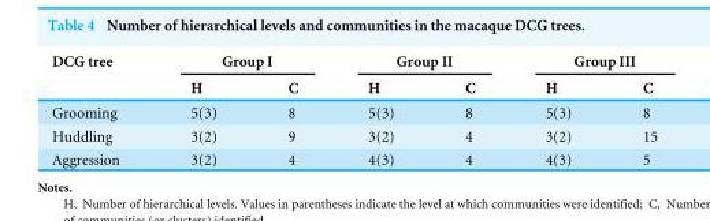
<table><thead><tr><td rowspan="2">DCG tree</td><td colspan="2">Group I</td><td colspan="2">Group II</td><td colspan="2">Group III</td></tr><tr><td>H</td><td>C</td><td>H</td><td>C</td><td>H</td><td>C</td></tr></thead><tbody><tr><td>Grooming</td><td>5(3)</td><td>8</td><td>5(3)</td><td>8</td><td>5(3)</td><td>8</td></tr><tr><td>Huddling</td><td>3(2)</td><td>9</td><td>3(2)</td><td>4</td><td>3(2)</td><td>15</td></tr><tr><td>Aggression</td><td>3(2)</td><td>4</td><td>4(3)</td><td>4</td><td>4(3)</td><td>5</td></tr></tbody></table>